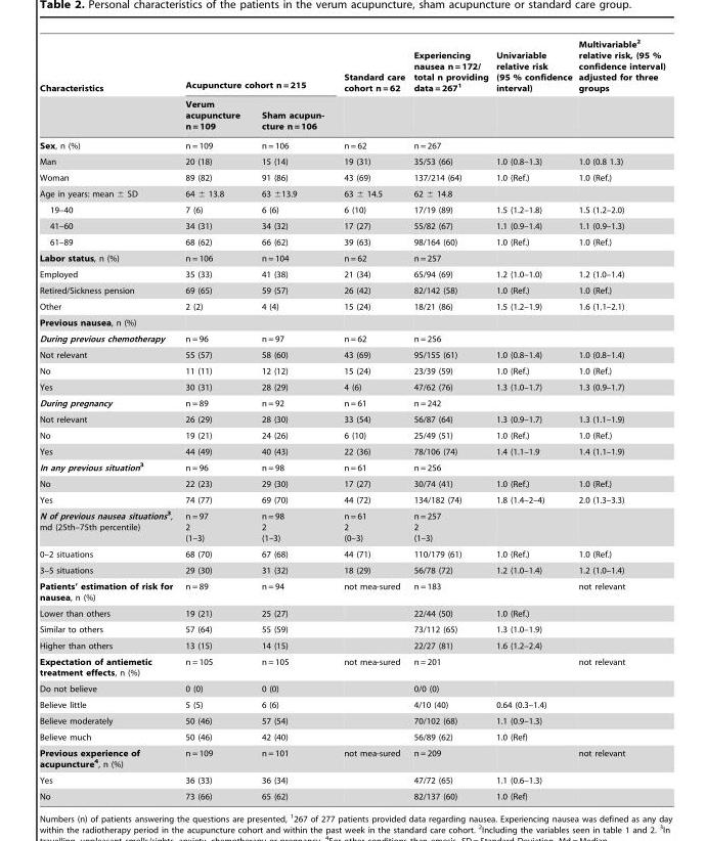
<table><thead><tr><td rowspan="2">Characteristics</td><td colspan="2">Acupuncture cohort n = 215</td><td rowspan="2">Standard care cohort n = 62</td><td rowspan="2">Experiencing nausea n = 172/ total n providing data = 267<sup>1</sup></td><td rowspan="2">Univariable relative risk (95 % confidence interval)</td><td rowspan="2">Multivariable<sup>2</sup> relative risk, (95 % confidence interval) adjusted for three groups</td></tr><tr><td>Verum acupuncture n = 109</td><td>Sham acupun- cture n = 106</td></tr></thead><tbody><tr><td>Sex, n (%)</td><td>n = 109</td><td>n = 106</td><td>n = 62</td><td>n = 267</td><td></td><td></td></tr><tr><td>Man</td><td>20 (18)</td><td>15 (14)</td><td>19 (31)</td><td>35/53 (66)</td><td>1.0 (0.8–1.3)</td><td>1.0 (0.8 1.3)</td></tr><tr><td>Woman</td><td>89 (82)</td><td>91 (86)</td><td>43 (69)</td><td>137/214 (64)</td><td>1.0 (Ref.)</td><td>1.0 (Ref.)</td></tr><tr><td>Age in years: mean ± SD</td><td>64 ± 13.8</td><td>63 ±13.9</td><td>63 ± 14.5</td><td>62 ± 14.8</td><td></td><td></td></tr><tr><td>19–40</td><td>7 (6)</td><td>6 (6)</td><td>6 (10)</td><td>17/19 (89)</td><td>1.5 (1.2–1.8)</td><td>1.5 (1.2–2.0)</td></tr><tr><td>41–60</td><td>34 (31)</td><td>34 (32)</td><td>17 (27)</td><td>55/82 (67)</td><td>1.1 (0.9–1.4)</td><td>1.1 (0.9–1.3)</td></tr><tr><td>61–89</td><td>68 (62)</td><td>66 (62)</td><td>39 (63)</td><td>98/164 (60)</td><td>1.0 (Ref.)</td><td>1.0 (Ref.)</td></tr><tr><td>Labor status, n (%)</td><td>n = 106</td><td>n = 104</td><td>n = 62</td><td>n = 257</td><td></td><td></td></tr><tr><td>Employed</td><td>35 (33)</td><td>41 (38)</td><td>21 (34)</td><td>65/94 (69)</td><td>1.2 (1.0–1.0)</td><td>1.2 (1.0–1.4)</td></tr><tr><td>Retired/Sickness pension</td><td>69 (65)</td><td>59 (57)</td><td>26 (42)</td><td>82/142 (58)</td><td>1.0 (Ref.)</td><td>1.0 (Ref.)</td></tr><tr><td>Other</td><td>2 (2)</td><td>4 (4)</td><td>15 (24)</td><td>18/21 (86)</td><td>1.5 (1.2–1.9)</td><td>1.6 (1.1–2.1)</td></tr><tr><td colspan="7">Previous nausea, n (%)</td></tr><tr><td>During previous chemotherapy</td><td>n = 96</td><td>n = 97</td><td>n = 62</td><td>n = 256</td><td></td><td></td></tr><tr><td>Not relevant</td><td>55 (57)</td><td>58 (60)</td><td>43 (69)</td><td>95/155 (61)</td><td>1.0 (0.8–1.4)</td><td>1.0 (0.8–1.4)</td></tr><tr><td>No</td><td>11 (11)</td><td>12 (12)</td><td>15 (24)</td><td>23/39 (59)</td><td>1.0 (Ref.)</td><td>1.0 (Ref.)</td></tr><tr><td>Yes</td><td>30 (31)</td><td>28 (29)</td><td>4 (6)</td><td>47/62 (76)</td><td>1.3 (1.0–1.7)</td><td>1.3 (0.9–1.7)</td></tr><tr><td>During pregnancy</td><td>n = 89</td><td>n = 92</td><td>n = 61</td><td>n = 242</td><td></td><td></td></tr><tr><td>Not relevant</td><td>26 (29)</td><td>28 (30)</td><td>33 (54)</td><td>56/87 (64)</td><td>1.3 (0.9–1.7)</td><td>1.3 (1.1–1.9)</td></tr><tr><td>No</td><td>19 (21)</td><td>24 (26)</td><td>6 (10)</td><td>25/49 (51)</td><td>1.0 (Ref.)</td><td>1.0 (Ref.)</td></tr><tr><td>Yes</td><td>44 (49)</td><td>40 (43)</td><td>22 (36)</td><td>78/106 (74)</td><td>1.4 (1.1–1.9</td><td>1.4 (1.1–1.9)</td></tr><tr><td>In any previous situation<sup>3</sup></td><td>n = 96</td><td>n = 98</td><td>n = 61</td><td>n = 256</td><td></td><td></td></tr><tr><td>No</td><td>22 (23)</td><td>29 (30)</td><td>17 (27)</td><td>30/74 (41)</td><td>1.0 (Ref.)</td><td>1.0 (Ref.)</td></tr><tr><td>Yes</td><td>74 (77)</td><td>69 (70)</td><td>44 (72)</td><td>134/182 (74)</td><td>1.8 (1.4–2–4)</td><td>2.0 (1.3–3.3)</td></tr><tr><td>N of previous nausea situations<sup>3</sup>, md (25th–75th percentile)</td><td>n = 97 2 (1–3)</td><td>n = 98 2 (1–3)</td><td>n = 61 2 (0–3)</td><td>n = 257 2 (1–3)</td><td></td><td></td></tr><tr><td>0–2 situations</td><td>68 (70)</td><td>67 (68)</td><td>44 (71)</td><td>110/179 (61)</td><td>1.0 (Ref.)</td><td>1.0 (Ref.)</td></tr><tr><td>3–5 situations</td><td>29 (30)</td><td>31 (32)</td><td>18 (29)</td><td>56/78 (72)</td><td>1.2 (1.0–1.4)</td><td>1.2 (1.0–1.4)</td></tr><tr><td>Patients’ estimation of risk for nausea, n (%)</td><td>n = 89</td><td>n = 94</td><td>not mea-sured</td><td>n = 183</td><td></td><td>not relevant</td></tr><tr><td>Lower than others</td><td>19 (21)</td><td>25 (27)</td><td></td><td>22/44 (50)</td><td>1.0 (Ref.)</td><td></td></tr><tr><td>Similar to others</td><td>57 (64)</td><td>55 (59)</td><td></td><td>73/112 (65)</td><td>1.3 (1.0–1.9)</td><td></td></tr><tr><td>Higher than others</td><td>13 (15)</td><td>14 (15)</td><td></td><td>22/27 (81)</td><td>1.6 (1.2–2.4)</td><td></td></tr><tr><td>Expectation of antiemetic treatment effects, n (%)</td><td>n = 105</td><td>n = 105</td><td>not mea-sured</td><td>n = 201</td><td></td><td>not relevant</td></tr><tr><td>Do not believe</td><td>0 (0)</td><td>0 (0)</td><td></td><td>0/0 (0)</td><td></td><td></td></tr><tr><td>Believe little</td><td>5 (5)</td><td>6 (6)</td><td></td><td>4/10 (40)</td><td>0.64 (0.3–1.4)</td><td></td></tr><tr><td>Believe moderately</td><td>50 (46)</td><td>57 (54)</td><td></td><td>70/102 (68)</td><td>1.1 (0.9–1.3)</td><td></td></tr><tr><td>Believe much</td><td>50 (46)</td><td>42 (40)</td><td></td><td>56/89 (62)</td><td>1.0 (Ref)</td><td></td></tr><tr><td>Previous experience of acupuncture<sup>4</sup>, n (%)</td><td>n = 109</td><td>n = 101</td><td>not mea-sured</td><td>n = 209</td><td></td><td>not relevant</td></tr><tr><td>Yes</td><td>36 (33)</td><td>36 (34)</td><td></td><td>47/72 (65)</td><td>1.1 (0.6–1.3)</td><td></td></tr><tr><td>No</td><td>73 (66)</td><td>65 (62)</td><td></td><td>82/137 (60)</td><td>1.0 (Ref)</td><td></td></tr></tbody></table>